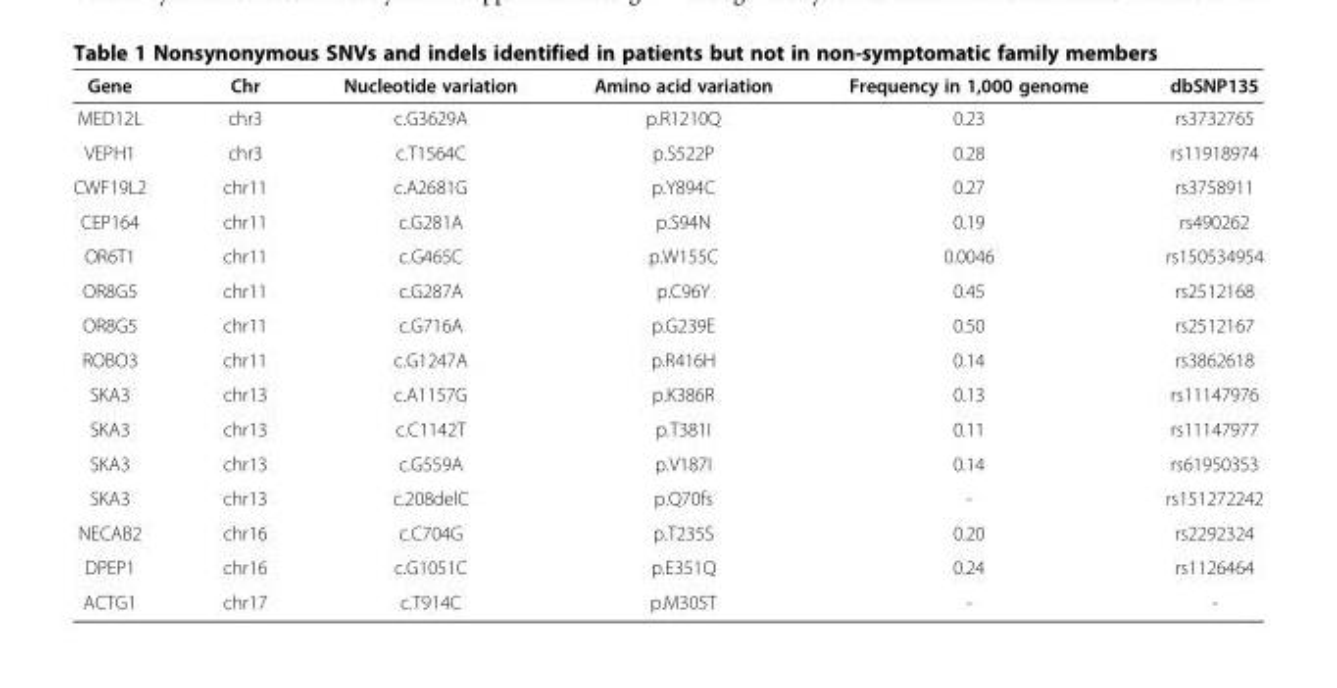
<table><thead><tr><td>Gene</td><td>Chr</td><td>Nucleotide variation</td><td>Amino acid variation</td><td>Frequency in 1,000 genome</td><td>dbSNP135</td></tr></thead><tbody><tr><td>MED12L</td><td>chr3</td><td>c.G3629A</td><td>p.R1210Q</td><td>0.23</td><td>rs3732765</td></tr><tr><td>VEPH1</td><td>chr3</td><td>c.T1564C</td><td>p.S522P</td><td>0.28</td><td>rs11918974</td></tr><tr><td>CWF19L2</td><td>chr11</td><td>c.A2681G</td><td>p.Y894C</td><td>0.27</td><td>rs3758911</td></tr><tr><td>CEP164</td><td>chr11</td><td>c.G281A</td><td>p.S94N</td><td>0.19</td><td>rs490262</td></tr><tr><td>OR6T1</td><td>chr11</td><td>c.G465C</td><td>p.W155C</td><td>0.0046</td><td>rs150534954</td></tr><tr><td>OR8G5</td><td>chr11</td><td>c.G287A</td><td>p.C96Y</td><td>0.45</td><td>rs2512168</td></tr><tr><td>OR8G5</td><td>chr11</td><td>c.G716A</td><td>p.G239E</td><td>0.50</td><td>rs2512167</td></tr><tr><td>ROBO3</td><td>chr11</td><td>c.G1247A</td><td>p.R416H</td><td>0.14</td><td>rs3862618</td></tr><tr><td>SKA3</td><td>chr13</td><td>c.A1157G</td><td>p.K386R</td><td>0.13</td><td>rs11147976</td></tr><tr><td>SKA3</td><td>chr13</td><td>c.C1142T</td><td>p.T381I</td><td>0.11</td><td>rs11147977</td></tr><tr><td>SKA3</td><td>chr13</td><td>c.G559A</td><td>p.V187I</td><td>0.14</td><td>rs61950353</td></tr><tr><td>SKA3</td><td>chr13</td><td>c.208delC</td><td>p.Q70fs</td><td>-</td><td>rs151272242</td></tr><tr><td>NECAB2</td><td>chr16</td><td>c.C704G</td><td>p.T235S</td><td>0.20</td><td>rs2292324</td></tr><tr><td>DPEP1</td><td>chr16</td><td>c.G1051C</td><td>p.E351Q</td><td>0.24</td><td>rs1126464</td></tr><tr><td>ACTG1</td><td>chr17</td><td>c.T914C</td><td>p.M305T</td><td>-</td><td>-</td></tr></tbody></table>